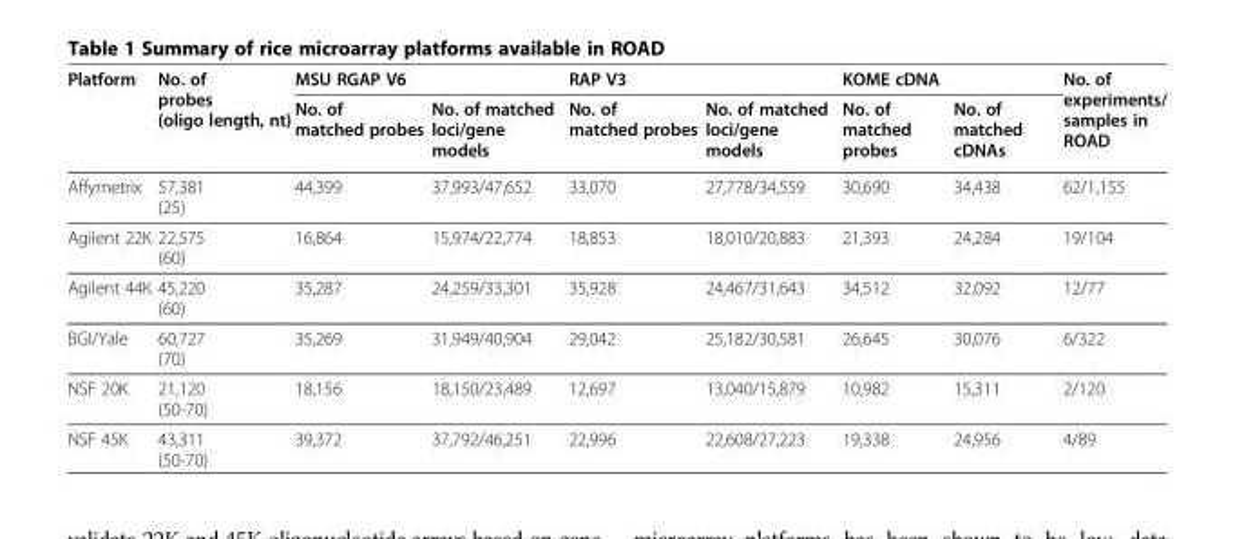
<table><thead><tr><td rowspan="2">Platform</td><td rowspan="2">No. of probes (oligo length, nt)</td><td colspan="2">MSU RGAP V6</td><td colspan="2">RAP V3</td><td colspan="2">KOME cDNA</td><td rowspan="2">No. of experiments/ samples in ROAD</td></tr><tr><td>No. of matched probes</td><td>No. of matched loci/gene models</td><td>No. of matched probes</td><td>No. of matched loci/gene models</td><td>No. of matched probes</td><td>No. of matched cDNAs</td></tr></thead><tbody><tr><td>Affymetrix</td><td>57,381 (25)</td><td>44,399</td><td>37,993/47,652</td><td>33,070</td><td>27,778/34,559</td><td>30,690</td><td>34,438</td><td>62/1,155</td></tr><tr><td>Agilent 22K</td><td>22,575 (60)</td><td>16,864</td><td>15,974/22,774</td><td>18,853</td><td>18,010/20,883</td><td>21,393</td><td>24,284</td><td>19/104</td></tr><tr><td>Agilent 44K</td><td>45,220 (60)</td><td>35,287</td><td>24,259/33,301</td><td>35,928</td><td>24,467/31,643</td><td>34,512</td><td>32,092</td><td>12/77</td></tr><tr><td>BGI/Yale</td><td>60,727 (70)</td><td>35,269</td><td>31,949/40,904</td><td>29,042</td><td>25,182/30,581</td><td>26,645</td><td>30,076</td><td>6/322</td></tr><tr><td>NSF 20K</td><td>21,120 (50-70)</td><td>18,156</td><td>18,150/23,489</td><td>12,697</td><td>13,040/15,879</td><td>10,982</td><td>15,311</td><td>2/120</td></tr><tr><td>NSF 45K</td><td>43,311 (50-70)</td><td>39,372</td><td>37,792/46,251</td><td>22,996</td><td>22,608/27,223</td><td>19,338</td><td>24,956</td><td>4/89</td></tr></tbody></table>